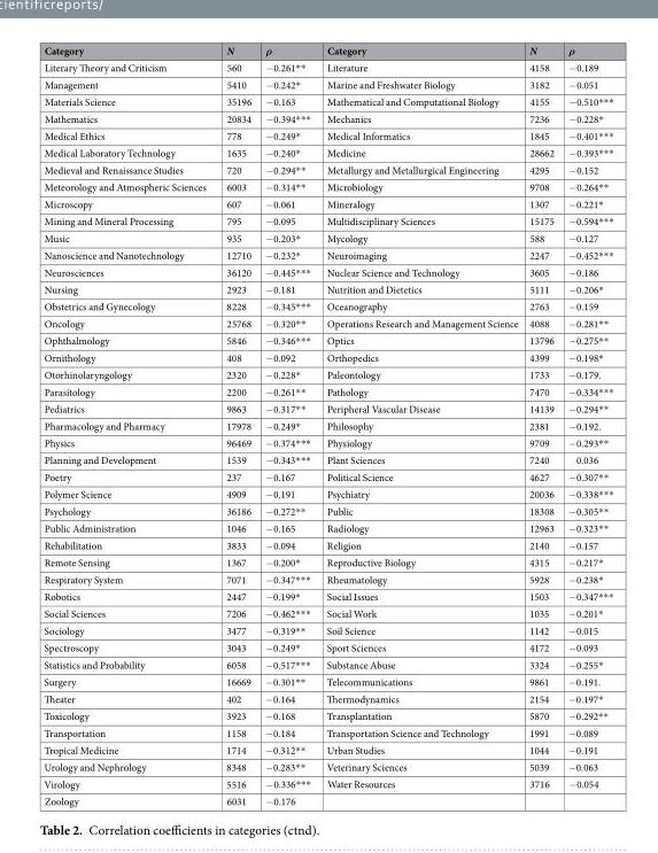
<table><thead><tr><td>Category</td><td>N</td><td>ρ</td><td>Category</td><td>N</td><td>ρ</td></tr></thead><tbody><tr><td>Literary Theory and Criticism</td><td>560</td><td>−0.261**</td><td>Literature</td><td>4158</td><td>−0.189</td></tr><tr><td>Management</td><td>5410</td><td>−0.242*</td><td>Marine and Freshwater Biology</td><td>3182</td><td>−0.051</td></tr><tr><td>Materials Science</td><td>35196</td><td>−0.163</td><td>Mathematical and Computational Biology</td><td>4155</td><td>−0.510***</td></tr><tr><td>Mathematics</td><td>20834</td><td>−0.394***</td><td>Mechanics</td><td>7236</td><td>−0.228*</td></tr><tr><td>Medical Ethics</td><td>778</td><td>−0.249*</td><td>Medical Informatics</td><td>1845</td><td>−0.401***</td></tr><tr><td>Medical Laboratory Technology</td><td>1635</td><td>−0.240*</td><td>Medicine</td><td>28662</td><td>−0.393***</td></tr><tr><td>Medieval and Renaissance Studies</td><td>720</td><td>−0.294**</td><td>Metallurgy and Metallurgical Engineering</td><td>4295</td><td>−0.152</td></tr><tr><td>Meteorology and Atmospheric Sciences</td><td>6003</td><td>−0.314**</td><td>Microbiology</td><td>9708</td><td>−0.264**</td></tr><tr><td>Microscopy</td><td>607</td><td>−0.061</td><td>Mineralogy</td><td>1307</td><td>−0.221*</td></tr><tr><td>Mining and Mineral Processing</td><td>795</td><td>−0.095</td><td>Multidisciplinary Sciences</td><td>15175</td><td>−0.594***</td></tr><tr><td>Music</td><td>935</td><td>−0.203*</td><td>Mycology</td><td>588</td><td>−0.127</td></tr><tr><td>Nanoscience and Nanotechnology</td><td>12710</td><td>−0.232*</td><td>Neuroimaging</td><td>2247</td><td>−0.452***</td></tr><tr><td>Neurosciences</td><td>36120</td><td>−0.445***</td><td>Nuclear Science and Technology</td><td>3605</td><td>−0.186</td></tr><tr><td>Nursing</td><td>2923</td><td>−0.181</td><td>Nutrition and Dietetics</td><td>5111</td><td>−0.206*</td></tr><tr><td>Obstetrics and Gynecology</td><td>8228</td><td>−0.345***</td><td>Oceanography</td><td>2763</td><td>−0.159</td></tr><tr><td>Oncology</td><td>25768</td><td>−0.320**</td><td>Operations Research and Management Science</td><td>4088</td><td>−0.281**</td></tr><tr><td>Ophthalmology</td><td>5846</td><td>−0.346***</td><td>Optics</td><td>13796</td><td>−0.275**</td></tr><tr><td>Ornithology</td><td>408</td><td>−0.092</td><td>Orthopedics</td><td>4399</td><td>−0.198*</td></tr><tr><td>Otorhinolaryngology</td><td>2320</td><td>−0.228*</td><td>Paleontology</td><td>1733</td><td>−0.179.</td></tr><tr><td>Parasitology</td><td>2200</td><td>−0.261**</td><td>Pathology</td><td>7470</td><td>−0.334***</td></tr><tr><td>Pediatrics</td><td>9863</td><td>−0.317**</td><td>Peripheral Vascular Disease</td><td>14139</td><td>−0.294**</td></tr><tr><td>Pharmacology and Pharmacy</td><td>17978</td><td>−0.249*</td><td>Philosophy</td><td>2381</td><td>−0.192.</td></tr><tr><td>Physics</td><td>96469</td><td>−0.374***</td><td>Physiology</td><td>9709</td><td>−0.293**</td></tr><tr><td>Planning and Development</td><td>1539</td><td>−0.343***</td><td>Plant Sciences</td><td>7240</td><td>0.036</td></tr><tr><td>Poetry</td><td>237</td><td>−0.167</td><td>Political Science</td><td>4627</td><td>−0.307**</td></tr><tr><td>Polymer Science</td><td>4909</td><td>−0.191</td><td>Psychiatry</td><td>20036</td><td>−0.338***</td></tr><tr><td>Psychology</td><td>36186</td><td>−0.272**</td><td>Public</td><td>18308</td><td>−0.305**</td></tr><tr><td>Public Administration</td><td>1046</td><td>−0.165</td><td>Radiology</td><td>12963</td><td>−0.323**</td></tr><tr><td>Rehabilitation</td><td>3833</td><td>−0.094</td><td>Religion</td><td>2140</td><td>−0.157</td></tr><tr><td>Remote Sensing</td><td>1367</td><td>−0.200*</td><td>Reproductive Biology</td><td>4315</td><td>−0.217*</td></tr><tr><td>Respiratory System</td><td>7071</td><td>−0.347***</td><td>Rheumatology</td><td>5928</td><td>−0.238*</td></tr><tr><td>Robotics</td><td>2447</td><td>−0.199*</td><td>Social Issues</td><td>1503</td><td>−0.347***</td></tr><tr><td>Social Sciences</td><td>7206</td><td>−0.462***</td><td>Social Work</td><td>1035</td><td>−0.201*</td></tr><tr><td>Sociology</td><td>3477</td><td>−0.319**</td><td>Soil Science</td><td>1142</td><td>−0.015</td></tr><tr><td>Spectroscopy</td><td>3043</td><td>−0.249*</td><td>Sport Sciences</td><td>4172</td><td>−0.093</td></tr><tr><td>Statistics and Probability</td><td>6058</td><td>−0.517***</td><td>Substance Abuse</td><td>3324</td><td>−0.255*</td></tr><tr><td>Surgery</td><td>16669</td><td>−0.301**</td><td>Telecommunications</td><td>9861</td><td>−0.191.</td></tr><tr><td>Theater</td><td>402</td><td>−0.164</td><td>Thermodynamics</td><td>2154</td><td>−0.197*</td></tr><tr><td>Toxicology</td><td>3923</td><td>−0.168</td><td>Transplantation</td><td>5870</td><td>−0.292**</td></tr><tr><td>Transportation</td><td>1158</td><td>−0.184</td><td>Transportation Science and Technology</td><td>1991</td><td>−0.089</td></tr><tr><td>Tropical Medicine</td><td>1714</td><td>−0.312**</td><td>Urban Studies</td><td>1044</td><td>−0.191</td></tr><tr><td>Urology and Nephrology</td><td>8348</td><td>−0.283**</td><td>Veterinary Sciences</td><td>5039</td><td>−0.063</td></tr><tr><td>Virology</td><td>5516</td><td>−0.336***</td><td>Water Resources</td><td>3716</td><td>−0.054</td></tr><tr><td>Zoology</td><td>6031</td><td>−0.176</td><td></td><td></td><td></td></tr></tbody></table>